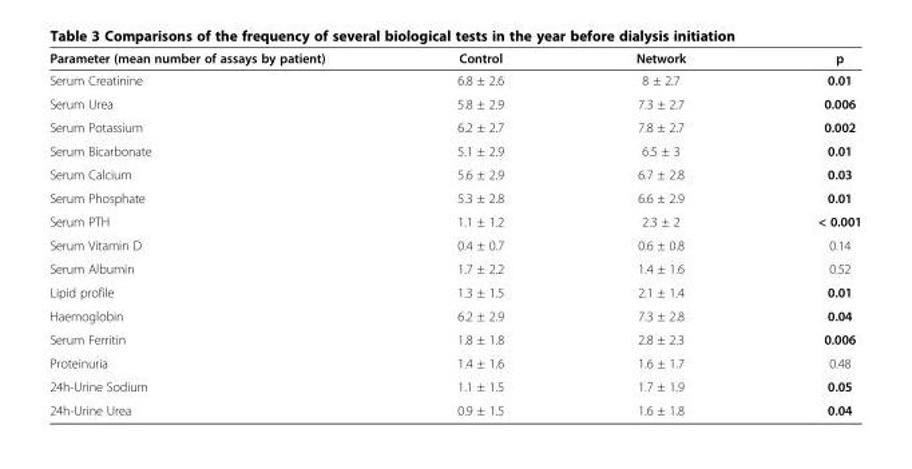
<table><thead><tr><td>Parameter (mean number of assays by patient)</td><td>Control</td><td>Network</td><td>p</td></tr></thead><tbody><tr><td>Serum Creatinine</td><td>6.8 ± 2.6</td><td>8 ± 2.7</td><td>0.01</td></tr><tr><td>Serum Urea</td><td>5.8 ± 2.9</td><td>7.3 ± 2.7</td><td>0.006</td></tr><tr><td>Serum Potassium</td><td>6.2 ± 2.7</td><td>7.8 ± 2.7</td><td>0.002</td></tr><tr><td>Serum Bicarbonate</td><td>5.1 ± 2.9</td><td>6.5 ± 3</td><td>0.01</td></tr><tr><td>Serum Calcium</td><td>5.6 ± 2.9</td><td>6.7 ± 2.8</td><td>0.03</td></tr><tr><td>Serum Phosphate</td><td>5.3 ± 2.8</td><td>6.6 ± 2.9</td><td>0.01</td></tr><tr><td>Serum PTH</td><td>1.1 ± 1.2</td><td>2.3 ± 2</td><td>&lt; 0.001</td></tr><tr><td>Serum Vitamin D</td><td>0.4 ± 0.7</td><td>0.6 ± 0.8</td><td>0.14</td></tr><tr><td>Serum Albumin</td><td>1.7 ± 2.2</td><td>1.4 ± 1.6</td><td>0.52</td></tr><tr><td>Lipid profile</td><td>1.3 ± 1.5</td><td>2.1 ± 1.4</td><td>0.01</td></tr><tr><td>Haemoglobin</td><td>6.2 ± 2.9</td><td>7.3 ± 2.8</td><td>0.04</td></tr><tr><td>Serum Ferritin</td><td>1.8 ± 1.8</td><td>2.8 ± 2.3</td><td>0.006</td></tr><tr><td>Proteinuria</td><td>1.4 ± 1.6</td><td>1.6 ± 1.7</td><td>0.48</td></tr><tr><td>24h-Urine Sodium</td><td>1.1 ± 1.5</td><td>1.7 ± 1.9</td><td>0.05</td></tr><tr><td>24h-Urine Urea</td><td>0.9 ± 1.5</td><td>1.6 ± 1.8</td><td>0.04</td></tr></tbody></table>